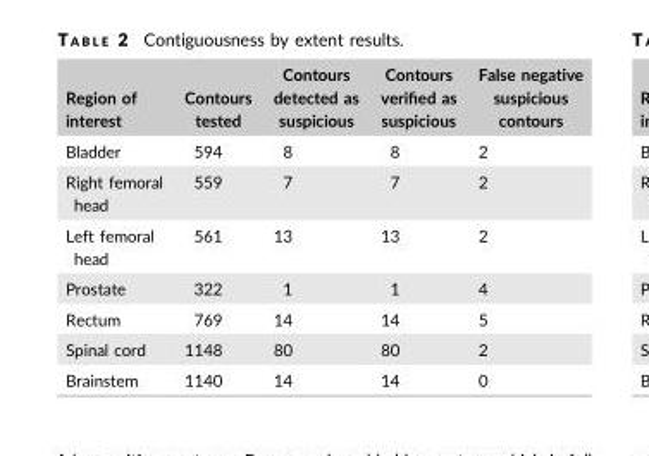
<table><thead><tr><td>Region of interest</td><td>Contours tested</td><td>Contours detected as suspicious</td><td>Contours verified as suspicious</td><td>False negative suspicious contours</td></tr></thead><tbody><tr><td>Bladder</td><td>594</td><td>8</td><td>8</td><td>2</td></tr><tr><td>Right femoral head</td><td>559</td><td>7</td><td>7</td><td>2</td></tr><tr><td>Left femoral head</td><td>561</td><td>13</td><td>13</td><td>2</td></tr><tr><td>Prostate</td><td>322</td><td>1</td><td>1</td><td>4</td></tr><tr><td>Rectum</td><td>769</td><td>14</td><td>14</td><td>5</td></tr><tr><td>Spinal cord</td><td>1148</td><td>80</td><td>80</td><td>2</td></tr><tr><td>Brainstem</td><td>1140</td><td>14</td><td>14</td><td>0</td></tr></tbody></table>